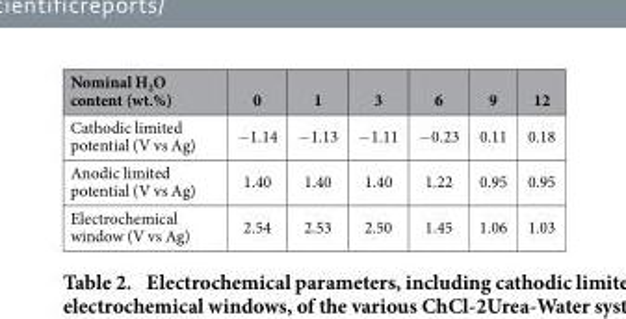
<table><thead><tr><td>Nominal H<sub>2</sub>O content (wt.%)</td><td>0</td><td>1</td><td>3</td><td>6</td><td>9</td><td>12</td></tr></thead><tbody><tr><td>Cathodic limited potential (V vs Ag)</td><td>− 1.14</td><td>− 1.13</td><td>− 1.11</td><td>− 0.23</td><td>0.11</td><td>0.18</td></tr><tr><td>Anodic limited potential (V vs Ag)</td><td>1.40</td><td>1.40</td><td>1.40</td><td>1.22</td><td>0.95</td><td>0.95</td></tr><tr><td>Electrochemical window (V vs Ag)</td><td>2.54</td><td>2.53</td><td>2.50</td><td>1.45</td><td>1.06</td><td>1.03</td></tr></tbody></table>